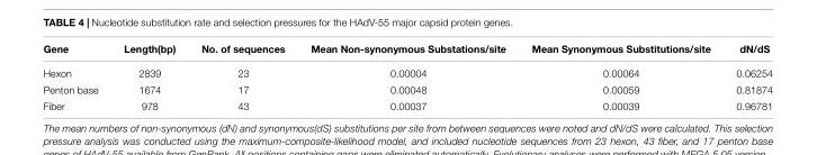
<table><thead><tr><td>Gene</td><td>Length(bp)</td><td>No. of sequences</td><td>Mean Non-synonymous Substations/site</td><td>Mean Synonymous Substitutions/site</td><td>dN/dS</td></tr></thead><tbody><tr><td>Hexon</td><td>2839</td><td>23</td><td>0.00004</td><td>0.00064</td><td>0.06254</td></tr><tr><td>Penton base</td><td>1674</td><td>17</td><td>0.00048</td><td>0.00059</td><td>0.81874</td></tr><tr><td>Fiber</td><td>978</td><td>43</td><td>0.00037</td><td>0.00039</td><td>0.96781</td></tr></tbody></table>